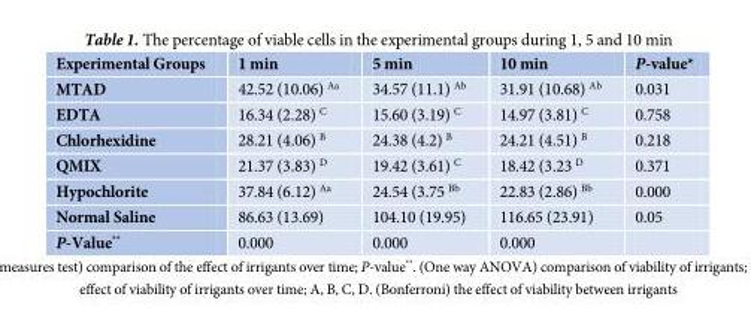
<table><thead><tr><td>Experimental Groups</td><td>1 min</td><td>5 min</td><td>10 min</td><td>P-value*</td></tr></thead><tbody><tr><td>MTAD</td><td>42.52 (10.06) Aa</td><td>34.57 (11.1) Ab</td><td>31.91 (10.68) Ab</td><td>0.031</td></tr><tr><td>EDTA</td><td>16.34 (2.28) C</td><td>15.60 (3.19) C</td><td>14.97 (3.81) C</td><td>0.758</td></tr><tr><td>Chlorhexidine</td><td>28.21 (4.06) B</td><td>24.38 (4.2) B</td><td>24.21 (4.51) B</td><td>0.218</td></tr><tr><td>QMIX</td><td>21.37 (3.83) D</td><td>19.42 (3.61) C</td><td>18.42 (3.23 D</td><td>0.371</td></tr><tr><td>Hypochlorite</td><td>37.84 (6.12) Aa</td><td>24.54 (3.75 Bb</td><td>22.83 (2.86) Bb</td><td>0.000</td></tr><tr><td>Normal Saline</td><td>86.63 (13.69)</td><td>104.10 (19.95)</td><td>116.65 (23.91)</td><td>0.05</td></tr><tr><td>P-Value**</td><td>0.000</td><td>0.000</td><td>0.000</td><td></td></tr></tbody></table>